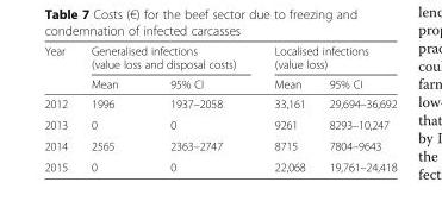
<table><thead><tr><td rowspan="2">Year</td><td colspan="2">Generalised infections (value loss and disposal costs)</td><td colspan="2">Localised infections (value loss)</td></tr><tr><td>Mean</td><td>95% CI</td><td>Mean</td><td>95% CI</td></tr></thead><tbody><tr><td>2012</td><td>1996</td><td>1937–2058</td><td>33,161</td><td>29,694–36,692</td></tr><tr><td>2013</td><td>0</td><td>0</td><td>9261</td><td>8293–10,247</td></tr><tr><td>2014</td><td>2565</td><td>2363–2747</td><td>8715</td><td>7804–9643</td></tr><tr><td>2015</td><td>0</td><td>0</td><td>22,068</td><td>19,761–24,418</td></tr></tbody></table>